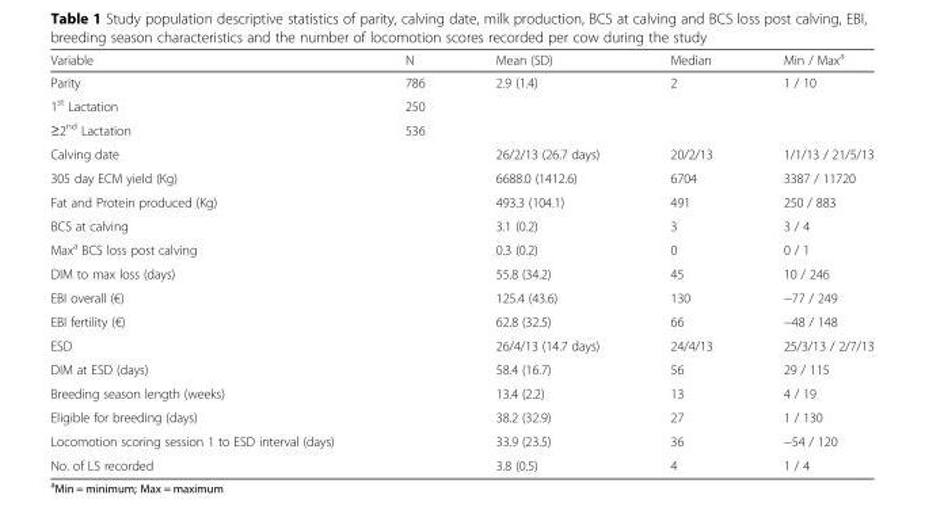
<table><thead><tr><td>Variable</td><td>N</td><td>Mean (SD)</td><td>Median</td><td>Min / Max<sup>a</sup></td></tr></thead><tbody><tr><td>Parity</td><td>786</td><td>2.9 (1.4)</td><td>2</td><td>1 / 10</td></tr><tr><td>1<sup>st</sup> Lactation</td><td>250</td><td></td><td></td><td></td></tr><tr><td>≥2<sup>nd</sup> Lactation</td><td>536</td><td></td><td></td><td></td></tr><tr><td>Calving date</td><td></td><td>26/2/13 (26.7 days)</td><td>20/2/13</td><td>1/1/13 / 21/5/13</td></tr><tr><td>305 day ECM yield (Kg)</td><td></td><td>6688.0 (1412.6)</td><td>6704</td><td>3387 / 11720</td></tr><tr><td>Fat and Protein produced (Kg)</td><td></td><td>493.3 (104.1)</td><td>491</td><td>250 / 883</td></tr><tr><td>BCS at calving</td><td></td><td>3.1 (0.2)</td><td>3</td><td>3 / 4</td></tr><tr><td>Max<sup>a</sup> BCS loss post calving</td><td></td><td>0.3 (0.2)</td><td>0</td><td>0 / 1</td></tr><tr><td>DIM to max loss (days)</td><td></td><td>55.8 (34.2)</td><td>45</td><td>10 / 246</td></tr><tr><td>EBI overall (€)</td><td></td><td>125.4 (43.6)</td><td>130</td><td>−77 / 249</td></tr><tr><td>EBI fertility (€)</td><td></td><td>62.8 (32.5)</td><td>66</td><td>−48 / 148</td></tr><tr><td>ESD</td><td></td><td>26/4/13 (14.7 days)</td><td>24/4/13</td><td>25/3/13 / 2/7/13</td></tr><tr><td>DIM at ESD (days)</td><td></td><td>58.4 (16.7)</td><td>56</td><td>29 / 115</td></tr><tr><td>Breeding season length (weeks)</td><td></td><td>13.4 (2.2)</td><td>13</td><td>4 / 19</td></tr><tr><td>Eligible for breeding (days)</td><td></td><td>38.2 (32.9)</td><td>27</td><td>1 / 130</td></tr><tr><td>Locomotion scoring session 1 to ESD interval (days)</td><td></td><td>33.9 (23.5)</td><td>36</td><td>−54 / 120</td></tr><tr><td>No. of LS recorded</td><td></td><td>3.8 (0.5)</td><td>4</td><td>1 / 4</td></tr></tbody></table>